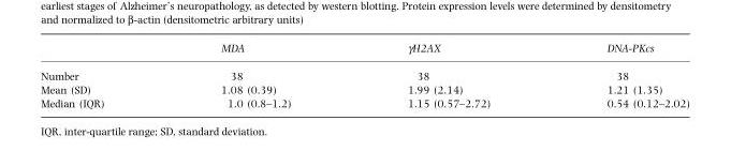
<table><thead><tr><td></td><td>MDA</td><td>γH2AX</td><td>DNA-PKcs</td></tr></thead><tbody><tr><td>Number</td><td>38</td><td>38</td><td>38</td></tr><tr><td>Mean (SD)</td><td>1.08 (0.39)</td><td>1.99 (2.14)</td><td>1.21 (1.35)</td></tr><tr><td>Median (IQR)</td><td>1.0 (0.8–1.2)</td><td>1.15 (0.57–2.72)</td><td>0.54 (0.12–2.02)</td></tr></tbody></table>